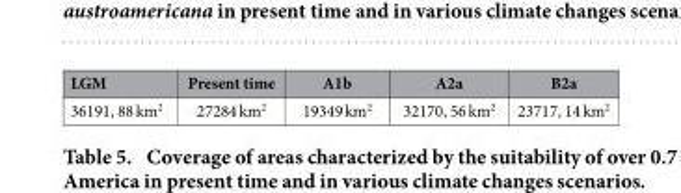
<table><thead><tr><td>LGM</td><td>Present time</td><td>A1b</td><td>A2a</td><td>B2a</td></tr></thead><tbody><tr><td>36191, 88 km<sup>2</sup></td><td>27284 km<sup>2</sup></td><td>19349 km<sup>2</sup></td><td>32170, 56 km<sup>2</sup></td><td>23717, 14 km<sup>2</sup></td></tr></tbody></table>